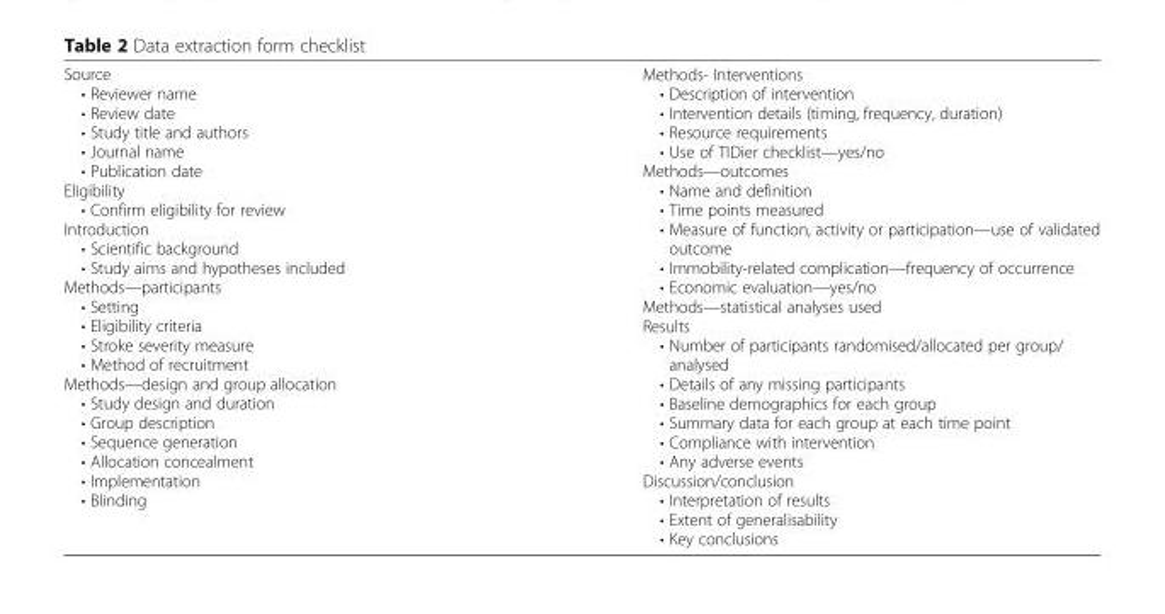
<table><tbody><tr><td>Source • Reviewer name • Review date • Study title and authors • Journal name • Publication date Eligibility • Confirm eligibility for review Introduction • Scientific background • Study aims and hypotheses included Methods—participants • Setting • Eligibility criteria • Stroke severity measure • Method of recruitment Methods—design and group allocation • Study design and duration • Group description • Sequence generation • Allocation concealment • Implementation • Blinding</td><td>Methods- Interventions • Description of intervention • Intervention details (timing, frequency, duration) • Resource requirements • Use of TIDier checklist—yes/no Methods—outcomes • Name and definition • Time points measured • Measure of function, activity or participation—use of validated outcome • Immobility-related complication—frequency of occurrence • Economic evaluation—yes/no Methods—statistical analyses used Results • Number of participants randomised/allocated per group/ analysed • Details of any missing participants • Baseline demographics for each group • Summary data for each group at each time point • Compliance with intervention • Any adverse events Discussion/conclusion • Interpretation of results • Extent of generalisability • Key conclusions</td></tr></tbody></table>